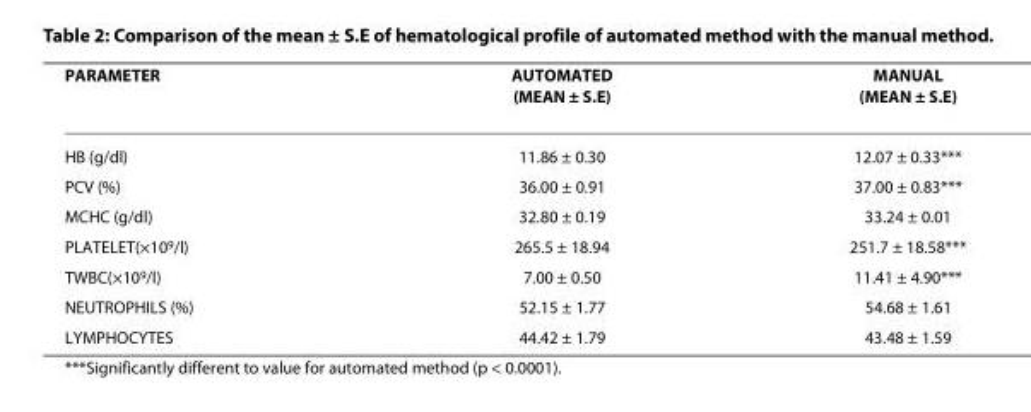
<table><thead><tr><td>PARAMETER</td><td>AUTOMATED (MEAN ± S.E)</td><td>MANUAL (MEAN ± S.E)</td></tr></thead><tbody><tr><td>HB (g/dl)</td><td>11.86 ± 0.30</td><td>12.07 ± 0.33***</td></tr><tr><td>PCV (%)</td><td>36.00 ± 0.91</td><td>37.00 ± 0.83***</td></tr><tr><td>MCHC (g/dl)</td><td>32.80 ± 0.19</td><td>33.24 ± 0.01</td></tr><tr><td>PLATELET(×10<sup>9</sup>/l)</td><td>265.5 ± 18.94</td><td>251.7 ± 18.58***</td></tr><tr><td>TWBC(×10<sup>9</sup>/l)</td><td>7.00 ± 0.50</td><td>11.41 ± 4.90***</td></tr><tr><td>NEUTROPHILS (%)</td><td>52.15 ± 1.77</td><td>54.68 ± 1.61</td></tr><tr><td>LYMPHOCYTES</td><td>44.42 ± 1.79</td><td>43.48 ± 1.59</td></tr></tbody></table>